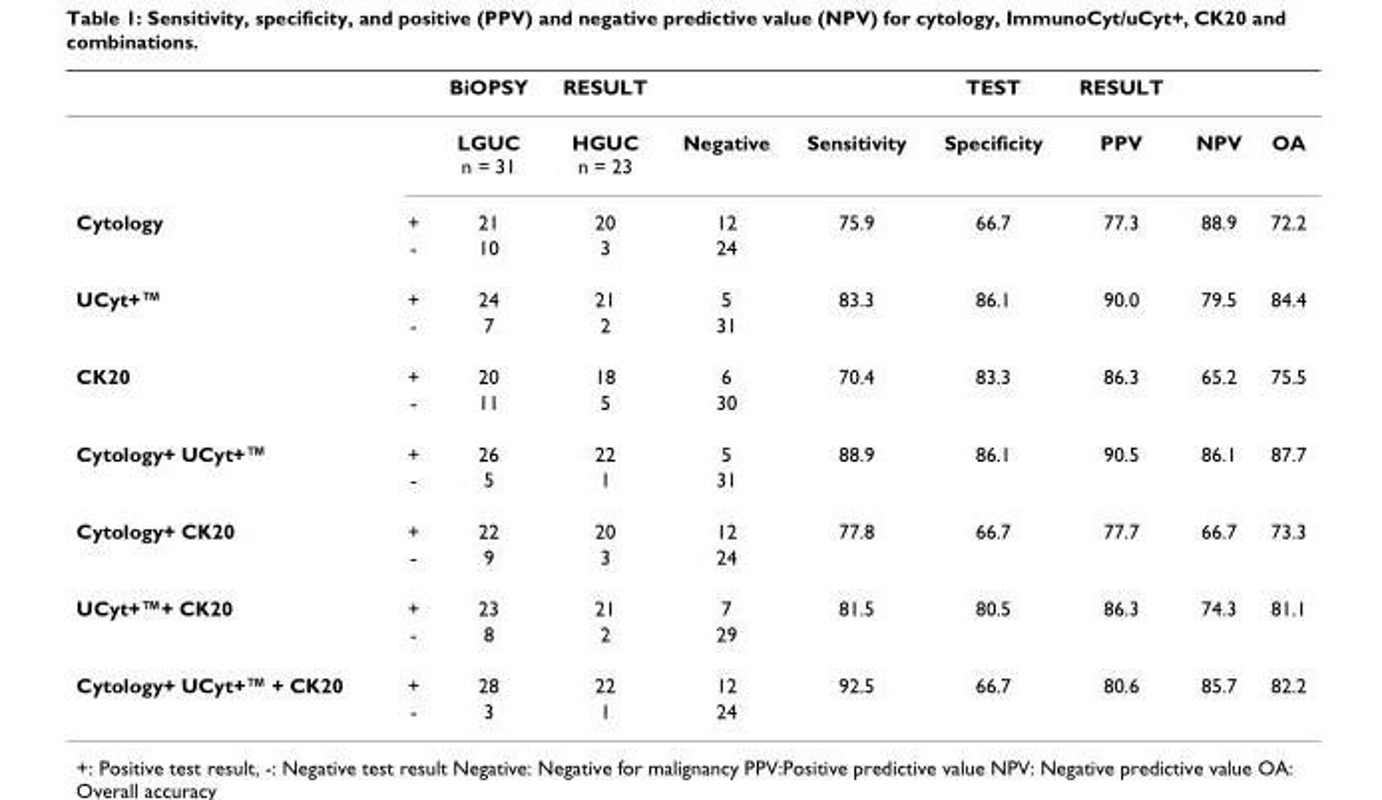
<table><thead><tr><td></td><td></td><td>BiOPSY</td><td>RESULT</td><td></td><td></td><td>TEST</td><td>RESULT</td><td></td><td></td></tr></thead><tbody><tr><td></td><td></td><td>LGUC n = 31</td><td>HGUC n = 23</td><td>Negative</td><td>Sensitivity</td><td>Specificity</td><td>PPV</td><td>NPV</td><td>OA</td></tr><tr><td rowspan="2">Cytology</td><td>+</td><td>21</td><td>20</td><td>12</td><td>75.9</td><td>66.7</td><td>77.3</td><td>88.9</td><td>72.2</td></tr><tr><td>-</td><td>10</td><td>3</td><td>24</td><td></td><td></td><td></td><td></td><td></td></tr><tr><td rowspan="2">UCyt+™</td><td>+</td><td>24</td><td>21</td><td>5</td><td>83.3</td><td>86.1</td><td>90.0</td><td>79.5</td><td>84.4</td></tr><tr><td>-</td><td>7</td><td>2</td><td>31</td><td></td><td></td><td></td><td></td><td></td></tr><tr><td rowspan="2">CK20</td><td>+</td><td>20</td><td>18</td><td>6</td><td>70.4</td><td>83.3</td><td>86.3</td><td>65.2</td><td>75.5</td></tr><tr><td>-</td><td>11</td><td>5</td><td>30</td><td></td><td></td><td></td><td></td><td></td></tr><tr><td rowspan="2">Cytology+ UCyt+™</td><td>+</td><td>26</td><td>22</td><td>5</td><td>88.9</td><td>86.1</td><td>90.5</td><td>86.1</td><td>87.7</td></tr><tr><td>-</td><td>5</td><td>1</td><td>31</td><td></td><td></td><td></td><td></td><td></td></tr><tr><td rowspan="2">Cytology+ CK20</td><td>+</td><td>22</td><td>20</td><td>12</td><td>77.8</td><td>66.7</td><td>77.7</td><td>66.7</td><td>73.3</td></tr><tr><td>-</td><td>9</td><td>3</td><td>24</td><td></td><td></td><td></td><td></td><td></td></tr><tr><td rowspan="2">UCyt+™+ CK20</td><td>+</td><td>23</td><td>21</td><td>7</td><td>81.5</td><td>80.5</td><td>86.3</td><td>74.3</td><td>81.1</td></tr><tr><td>-</td><td>8</td><td>2</td><td>29</td><td></td><td></td><td></td><td></td><td></td></tr><tr><td rowspan="2">Cytology+ UCyt+™ + CK20</td><td>+</td><td>28</td><td>22</td><td>12</td><td>92.5</td><td>66.7</td><td>80.6</td><td>85.7</td><td>82.2</td></tr><tr><td>-</td><td>3</td><td>1</td><td>24</td><td></td><td></td><td></td><td></td><td></td></tr></tbody></table>